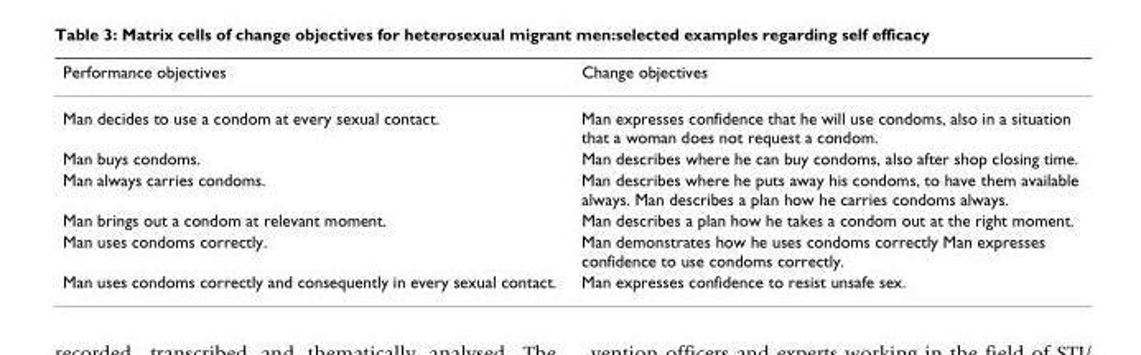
<table><thead><tr><td>Performance objectives</td><td>Change objectives</td></tr></thead><tbody><tr><td>Man decides to use a condom at every sexual contact.</td><td>Man expresses confidence that he will use condoms, also in a situation that a woman does not request a condom.</td></tr><tr><td>Man buys condoms.</td><td>Man describes where he can buy condoms, also after shop closing time.</td></tr><tr><td>Man always carries condoms.</td><td>Man describes where he puts away his condoms, to have them available always. Man describes a plan how he carries condoms always.</td></tr><tr><td>Man brings out a condom at relevant moment.</td><td>Man describes a plan how he takes a condom out at the right moment.</td></tr><tr><td>Man uses condoms correctly.</td><td>Man demonstrates how he uses condoms correctly Man expresses confidence to use condoms correctly.</td></tr><tr><td>Man uses condoms correctly and consequently in every sexual contact.</td><td>Man expresses confidence to resist unsafe sex.</td></tr></tbody></table>